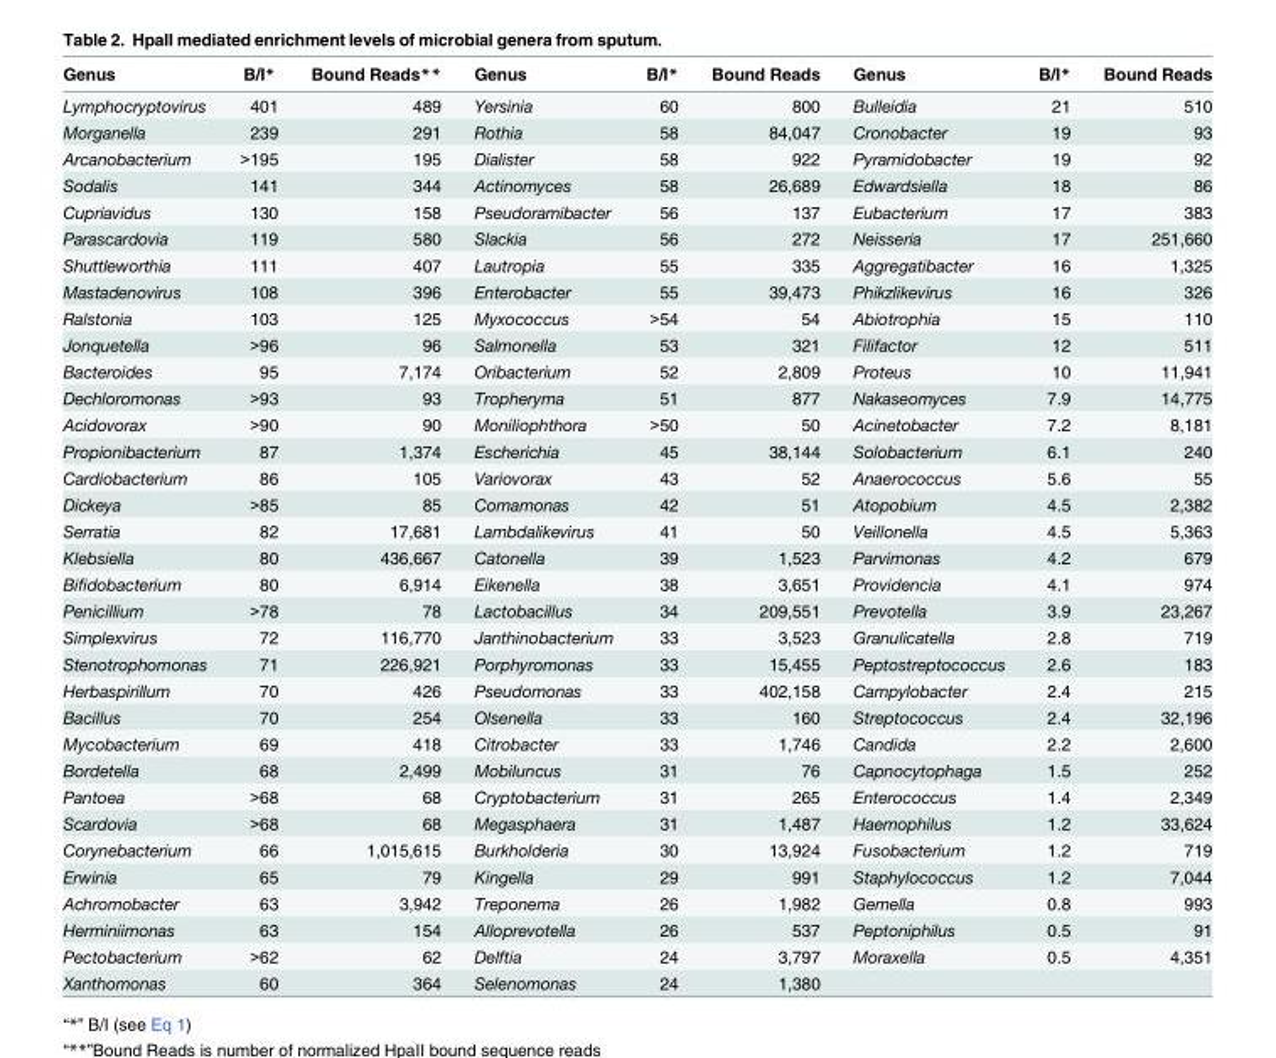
<table><thead><tr><td>Genus</td><td>B/I*</td><td>Bound Reads**</td><td>Genus</td><td>B/I*</td><td>Bound Reads</td><td>Genus</td><td>B/I*</td><td>Bound Reads</td></tr></thead><tbody><tr><td>Lymphocryptovirus</td><td>401</td><td>489</td><td>Yersinia</td><td>60</td><td>800</td><td>Bulleidia</td><td>21</td><td>510</td></tr><tr><td>Morganella</td><td>239</td><td>291</td><td>Rothia</td><td>58</td><td>84,047</td><td>Cronobacter</td><td>19</td><td>93</td></tr><tr><td>Arcanobacterium</td><td>&gt;195</td><td>195</td><td>Dialister</td><td>58</td><td>922</td><td>Pyramidobacter</td><td>19</td><td>92</td></tr><tr><td>Sodalis</td><td>141</td><td>344</td><td>Actinomyces</td><td>58</td><td>26,689</td><td>Edwardsiella</td><td>18</td><td>86</td></tr><tr><td>Cupriavidus</td><td>130</td><td>158</td><td>Pseudoramibacter</td><td>56</td><td>137</td><td>Eubacterium</td><td>17</td><td>383</td></tr><tr><td>Parascardovia</td><td>119</td><td>580</td><td>Slackia</td><td>56</td><td>272</td><td>Neisseria</td><td>17</td><td>251,660</td></tr><tr><td>Shuttleworthia</td><td>111</td><td>407</td><td>Lautropia</td><td>55</td><td>335</td><td>Aggregatibacter</td><td>16</td><td>1,325</td></tr><tr><td>Mastadenovirus</td><td>108</td><td>396</td><td>Enterobacter</td><td>55</td><td>39,473</td><td>Phikzlikevirus</td><td>16</td><td>326</td></tr><tr><td>Ralstonia</td><td>103</td><td>125</td><td>Myxococcus</td><td>&gt;54</td><td>54</td><td>Abiotrophia</td><td>15</td><td>110</td></tr><tr><td>Jonquetella</td><td>&gt;96</td><td>96</td><td>Salmonella</td><td>53</td><td>321</td><td>Filifactor</td><td>12</td><td>511</td></tr><tr><td>Bacteroides</td><td>95</td><td>7,174</td><td>Oribacterium</td><td>52</td><td>2,809</td><td>Proteus</td><td>10</td><td>11,941</td></tr><tr><td>Dechloromonas</td><td>&gt;93</td><td>93</td><td>Tropheryma</td><td>51</td><td>877</td><td>Nakaseomyces</td><td>7.9</td><td>14,775</td></tr><tr><td>Acidovorax</td><td>&gt;90</td><td>90</td><td>Moniliophthora</td><td>&gt;50</td><td>50</td><td>Acinetobacter</td><td>7.2</td><td>8,181</td></tr><tr><td>Propionibacterium</td><td>87</td><td>1,374</td><td>Escherichia</td><td>45</td><td>38,144</td><td>Solobacterium</td><td>6.1</td><td>240</td></tr><tr><td>Cardiobacterium</td><td>86</td><td>105</td><td>Variovorax</td><td>43</td><td>52</td><td>Anaerococcus</td><td>5.6</td><td>55</td></tr><tr><td>Dickeya</td><td>&gt;85</td><td>85</td><td>Comamonas</td><td>42</td><td>51</td><td>Atopobium</td><td>4.5</td><td>2,382</td></tr><tr><td>Serratia</td><td>82</td><td>17,681</td><td>Lambdalikevirus</td><td>41</td><td>50</td><td>Veillonella</td><td>4.5</td><td>5,363</td></tr><tr><td>Klebsiella</td><td>80</td><td>436,667</td><td>Catonella</td><td>39</td><td>1,523</td><td>Parvimonas</td><td>4.2</td><td>679</td></tr><tr><td>Bifidobacterium</td><td>80</td><td>6,914</td><td>Eikenella</td><td>38</td><td>3,651</td><td>Providencia</td><td>4.1</td><td>974</td></tr><tr><td>Penicillium</td><td>&gt;78</td><td>78</td><td>Lactobacillus</td><td>34</td><td>209,551</td><td>Prevotella</td><td>3.9</td><td>23,267</td></tr><tr><td>Simplexvirus</td><td>72</td><td>116,770</td><td>Janthinobacterium</td><td>33</td><td>3,523</td><td>Granulicatella</td><td>2.8</td><td>719</td></tr><tr><td>Stenotrophomonas</td><td>71</td><td>226,921</td><td>Porphyromonas</td><td>33</td><td>15,455</td><td>Peptostreptococcus</td><td>2.6</td><td>183</td></tr><tr><td>Herbaspirillum</td><td>70</td><td>426</td><td>Pseudomonas</td><td>33</td><td>402,158</td><td>Campylobacter</td><td>2.4</td><td>215</td></tr><tr><td>Bacillus</td><td>70</td><td>254</td><td>Olsenella</td><td>33</td><td>160</td><td>Streptococcus</td><td>2.4</td><td>32,196</td></tr><tr><td>Mycobacterium</td><td>69</td><td>418</td><td>Citrobacter</td><td>33</td><td>1,746</td><td>Candida</td><td>2.2</td><td>2,600</td></tr><tr><td>Bordetella</td><td>68</td><td>2,499</td><td>Mobiluncus</td><td>31</td><td>76</td><td>Capnocytophaga</td><td>1.5</td><td>252</td></tr><tr><td>Pantoea</td><td>&gt;68</td><td>68</td><td>Cryptobacterium</td><td>31</td><td>265</td><td>Enterococcus</td><td>1.4</td><td>2,349</td></tr><tr><td>Scardovia</td><td>&gt;68</td><td>68</td><td>Megasphaera</td><td>31</td><td>1,487</td><td>Haemophilus</td><td>1.2</td><td>33,624</td></tr><tr><td>Corynebacterium</td><td>66</td><td>1,015,615</td><td>Burkholderia</td><td>30</td><td>13,924</td><td>Fusobacterium</td><td>1.2</td><td>719</td></tr><tr><td>Erwinia</td><td>65</td><td>79</td><td>Kingella</td><td>29</td><td>991</td><td>Staphylococcus</td><td>1.2</td><td>7,044</td></tr><tr><td>Achromobacter</td><td>63</td><td>3,942</td><td>Treponema</td><td>26</td><td>1,982</td><td>Gemella</td><td>0.8</td><td>993</td></tr><tr><td>Herminiimonas</td><td>63</td><td>154</td><td>Alloprevotella</td><td>26</td><td>537</td><td>Peptoniphilus</td><td>0.5</td><td>91</td></tr><tr><td>Pectobacterium</td><td>&gt;62</td><td>62</td><td>Delftia</td><td>24</td><td>3,797</td><td>Moraxella</td><td>0.5</td><td>4,351</td></tr><tr><td>Xanthomonas</td><td>60</td><td>364</td><td>Selenomonas</td><td>24</td><td>1,380</td><td></td><td></td><td></td></tr></tbody></table>